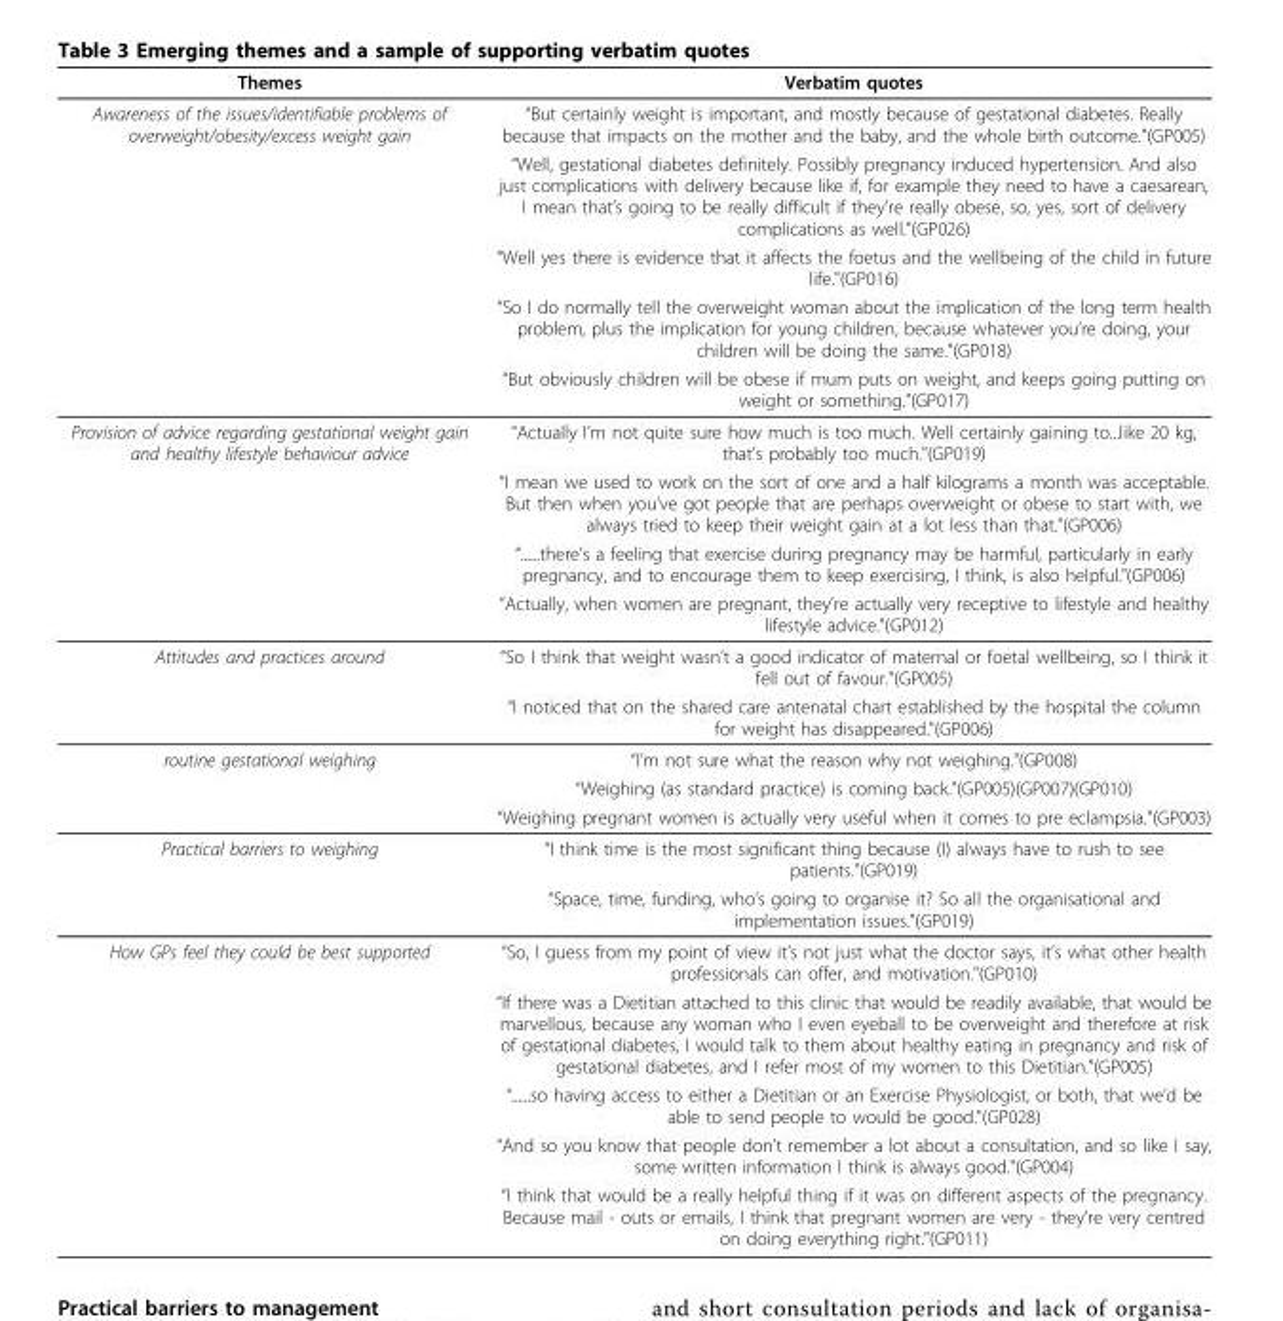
<table><thead><tr><td>Themes</td><td>Verbatim quotes</td></tr></thead><tbody><tr><td rowspan="5">Awareness of the issues/identifiable problems of overweight/obesity/excess weight gain</td><td>“But certainly weight is important, and mostly because of gestational diabetes. Really because that impacts on the mother and the baby, and the whole birth outcome.&quot;(GP005)</td></tr><tr><td>“Well, gestational diabetes definitely. Possibly pregnancy induced hypertension. And also just complications with delivery because like if, for example they need to have a caesarean, I mean that’s going to be really difficult if they’re really obese, so, yes, sort of delivery complications as well.&quot;(GP026)</td></tr><tr><td>“Well yes there is evidence that it affects the foetus and the wellbeing of the child in future life.&quot;(GP016)</td></tr><tr><td>“So I do normally tell the overweight woman about the implication of the long term health problem, plus the implication for young children, because whatever you’re doing, your children will be doing the same.&quot;(GP018)</td></tr><tr><td>“But obviously children will be obese if mum puts on weight, and keeps going putting on weight or something.&quot;(GP017)</td></tr><tr><td rowspan="4">Provision of advice regarding gestational weight gain and healthy lifestyle behaviour advice</td><td>“Actually I’m not quite sure how much is too much. Well certainly gaining to...like 20 kg, that’s probably too much.&quot;(GP019)</td></tr><tr><td>“I mean we used to work on the sort of one and a half kilograms a month was acceptable. But then when you’ve got people that are perhaps overweight or obese to start with, we always tried to keep their weight gain at a lot less than that.&quot;(GP006)</td></tr><tr><td>“......there’s a feeling that exercise during pregnancy may be harmful, particularly in early pregnancy, and to encourage them to keep exercising, I think, is also helpful.&quot;(GP006)</td></tr><tr><td>“Actually, when women are pregnant, they’re actually very receptive to lifestyle and healthy lifestyle advice.&quot;(GP012)</td></tr><tr><td rowspan="2">Attitudes and practices around</td><td>“So I think that weight wasn’t a good indicator of maternal or foetal wellbeing, so I think it fell out of favour.&quot;(GP005)</td></tr><tr><td>“I noticed that on the shared care antenatal chart established by the hospital the column for weight has disappeared.&quot;(GP006)</td></tr><tr><td rowspan="3">routine gestational weighing</td><td>“I’m not sure what the reason why not weighing.&quot;(GP008)</td></tr><tr><td>“Weighing (as standard practice) is coming back.&quot;(GP005)(GP007)(GP010)</td></tr><tr><td>“Weighing pregnant women is actually very useful when it comes to pre eclampsia.&quot;(GP003)</td></tr><tr><td rowspan="2">Practical barriers to weighing</td><td>“I think time is the most significant thing because (I) always have to rush to see patients.&quot;(GP019)</td></tr><tr><td>“Space, time, funding, who’s going to organise it? So all the organisational and implementation issues.&quot;(GP019)</td></tr><tr><td rowspan="5">How GPs feel they could be best supported</td><td>“So, I guess from my point of view it’s not just what the doctor says, it’s what other health professionals can offer, and motivation.&quot;(GP010)</td></tr><tr><td>“If there was a Dietitian attached to this clinic that would be readily available, that would be marvellous, because any woman who I even eyeball to be overweight and therefore at risk of gestational diabetes, I would talk to them about healthy eating in pregnancy and risk of gestational diabetes, and I refer most of my women to this Dietitian.&quot;(GP005)</td></tr><tr><td>“......so having access to either a Dietitian or an Exercise Physiologist, or both, that we’d be able to send people to would be good.&quot;(GP028)</td></tr><tr><td>“And so you know that people don’t remember a lot about a consultation, and so like I say, some written information I think is always good.&quot;(GP004)</td></tr><tr><td>“I think that would be a really helpful thing if it was on different aspects of the pregnancy. Because mail - outs or emails, I think that pregnant women are very - they’re very centred on doing everything right.&quot;(GP011)</td></tr></tbody></table>